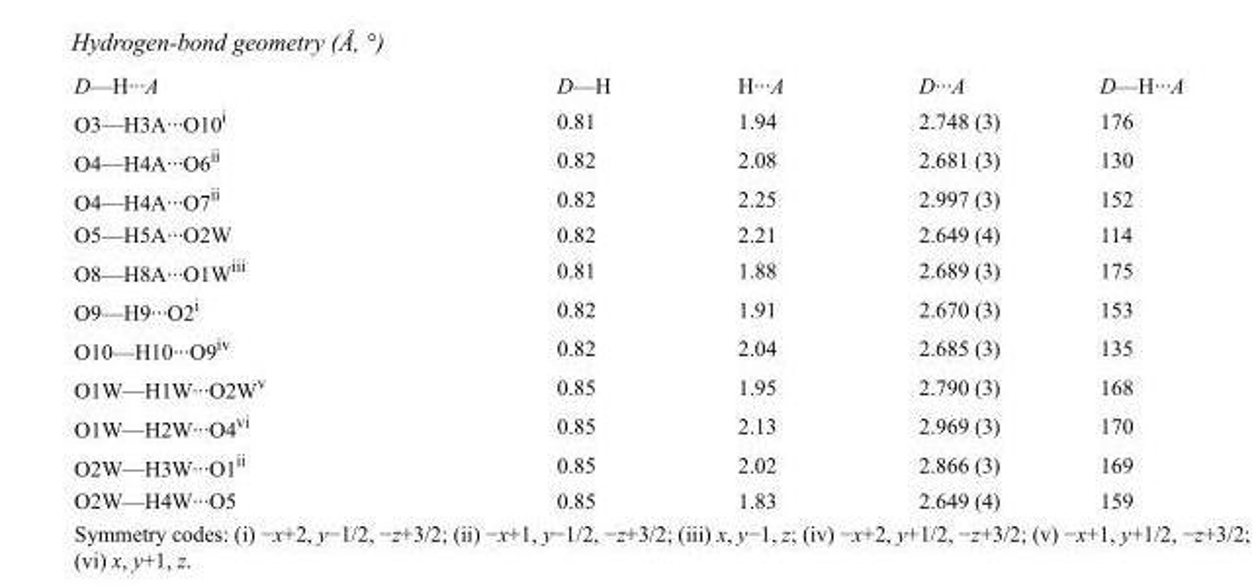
<table><tbody><tr><td>D—H···A</td><td>D—H</td><td>H···A</td><td>D···A</td><td>D—H···A</td></tr><tr><td>O3—H3A···O10i</td><td>0.81</td><td>1.94</td><td>2.748 (3)</td><td>176</td></tr><tr><td>O4—H4A···O6ii</td><td>0.82</td><td>2.08</td><td>2.681 (3)</td><td>130</td></tr><tr><td>O4—H4A···O7ii</td><td>0.82</td><td>2.25</td><td>2.997 (3)</td><td>152</td></tr><tr><td>O5—H5A···O2W</td><td>0.82</td><td>2.21</td><td>2.649 (4)</td><td>114</td></tr><tr><td>O8—H8A···O1Wiii</td><td>0.81</td><td>1.88</td><td>2.689 (3)</td><td>175</td></tr><tr><td>O9—H9···O2i</td><td>0.82</td><td>1.91</td><td>2.670 (3)</td><td>153</td></tr><tr><td>O10—H10···O9iv</td><td>0.82</td><td>2.04</td><td>2.685 (3)</td><td>135</td></tr><tr><td>O1W—H1W···O2Wv</td><td>0.85</td><td>1.95</td><td>2.790 (3)</td><td>168</td></tr><tr><td>O1W—H2W···O4vi</td><td>0.85</td><td>2.13</td><td>2.969 (3)</td><td>170</td></tr><tr><td>O2W—H3W···O1ii</td><td>0.85</td><td>2.02</td><td>2.866 (3)</td><td>169</td></tr><tr><td>O2W—H4W···O5</td><td>0.85</td><td>1.83</td><td>2.649 (4)</td><td>159</td></tr></tbody></table>